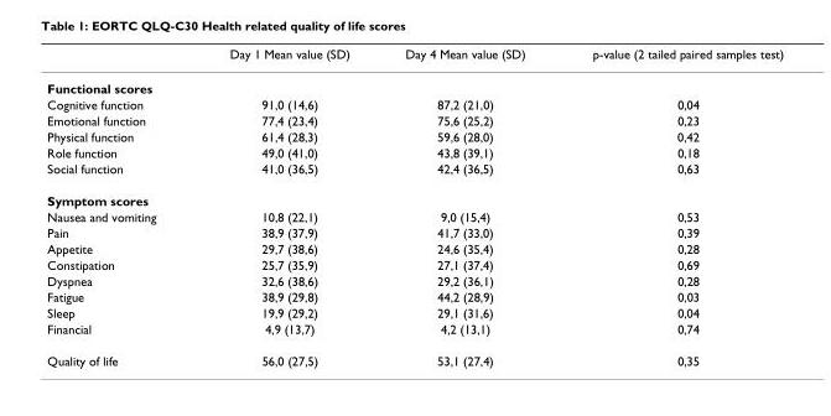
<table><thead><tr><td></td><td>Day 1 Mean value (SD)</td><td>Day 4 Mean value (SD)</td><td>p-value (2 tailed paired samples test)</td></tr></thead><tbody><tr><td colspan="4">Functional scores</td></tr><tr><td>Cognitive function</td><td>91,0 (14,6)</td><td>87,2 (21,0)</td><td>0,04</td></tr><tr><td>Emotional function</td><td>77,4 (23,4)</td><td>75,6 (25,2)</td><td>0,23</td></tr><tr><td>Physical function</td><td>61,4 (28,3)</td><td>59,6 (28,0)</td><td>0,42</td></tr><tr><td>Role function</td><td>49,0 (41,0)</td><td>43,8 (39,1)</td><td>0,18</td></tr><tr><td>Social function</td><td>41,0 (36,5)</td><td>42,4 (36,5)</td><td>0,63</td></tr><tr><td colspan="4">Symptom scores</td></tr><tr><td>Nausea and vomiting</td><td>10,8 (22,1)</td><td>9,0 (15,4)</td><td>0,53</td></tr><tr><td>Pain</td><td>38,9 (37,9)</td><td>41,7 (33,0)</td><td>0,39</td></tr><tr><td>Appetite</td><td>29,7 (38,6)</td><td>24,6 (35,4)</td><td>0,28</td></tr><tr><td>Constipation</td><td>25,7 (35,9)</td><td>27,1 (37,4)</td><td>0,69</td></tr><tr><td>Dyspnea</td><td>32,6 (38,6)</td><td>29,2 (36,1)</td><td>0,28</td></tr><tr><td>Fatigue</td><td>38,9 (29,8)</td><td>44,2 (28,9)</td><td>0,03</td></tr><tr><td>Sleep</td><td>19,9 (29,2)</td><td>29,1 (31,6)</td><td>0,04</td></tr><tr><td>Financial</td><td>4,9 (13,7)</td><td>4,2 (13,1)</td><td>0,74</td></tr><tr><td>Quality of life</td><td>56,0 (27,5)</td><td>53,1 (27,4)</td><td>0,35</td></tr></tbody></table>